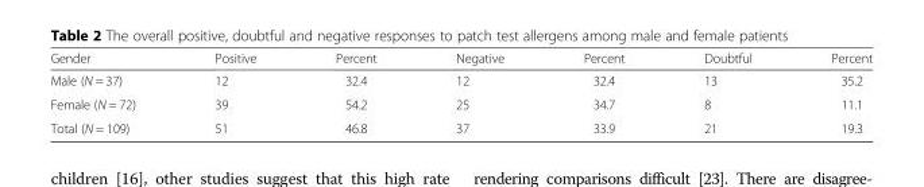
<table><thead><tr><td>Gender</td><td>Positive</td><td>Percent</td><td>Negative</td><td>Percent</td><td>Doubtful</td><td>Percent</td></tr></thead><tbody><tr><td>Male (N = 37)</td><td>12</td><td>32.4</td><td>12</td><td>32.4</td><td>13</td><td>35.2</td></tr><tr><td>Female (N = 72)</td><td>39</td><td>54.2</td><td>25</td><td>34.7</td><td>8</td><td>11.1</td></tr><tr><td>Total (N = 109)</td><td>51</td><td>46.8</td><td>37</td><td>33.9</td><td>21</td><td>19.3</td></tr></tbody></table>